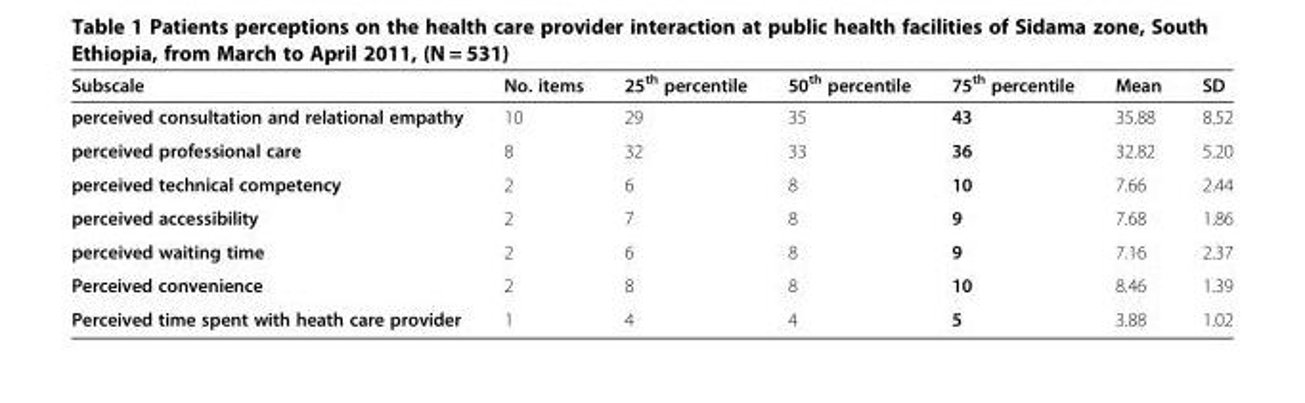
<table><thead><tr><td>Subscale</td><td>No. items</td><td>25<sup>th</sup> percentile</td><td>50<sup>th</sup> percentile</td><td>75<sup>th</sup> percentile</td><td>Mean</td><td>SD</td></tr></thead><tbody><tr><td>perceived consultation and relational empathy</td><td>10</td><td>29</td><td>35</td><td>43</td><td>35.88</td><td>8.52</td></tr><tr><td>perceived professional care</td><td>8</td><td>32</td><td>33</td><td>36</td><td>32.82</td><td>5.20</td></tr><tr><td>perceived technical competency</td><td>2</td><td>6</td><td>8</td><td>10</td><td>7.66</td><td>2.44</td></tr><tr><td>perceived accessibility</td><td>2</td><td>7</td><td>8</td><td>9</td><td>7.68</td><td>1.86</td></tr><tr><td>perceived waiting time</td><td>2</td><td>6</td><td>8</td><td>9</td><td>7.16</td><td>2.37</td></tr><tr><td>Perceived convenience</td><td>2</td><td>8</td><td>8</td><td>10</td><td>8.46</td><td>1.39</td></tr><tr><td>Perceived time spent with heath care provider</td><td>1</td><td>4</td><td>4</td><td>5</td><td>3.88</td><td>1.02</td></tr></tbody></table>